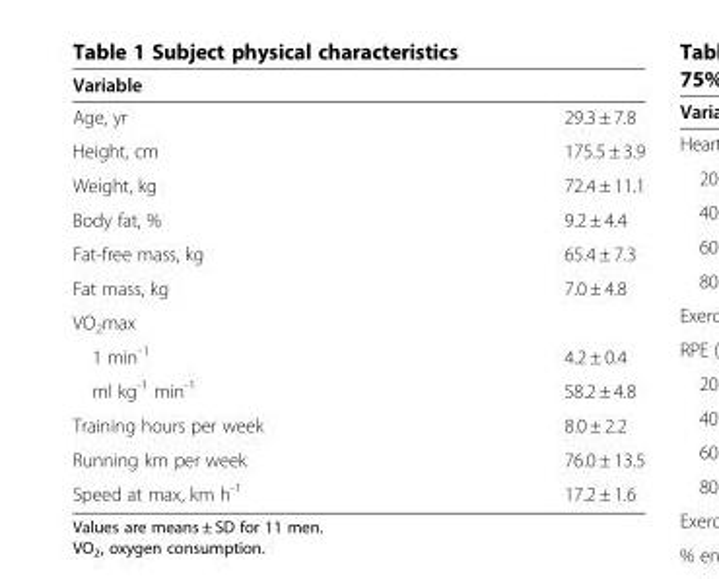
<table><thead><tr><td colspan="2">Variable</td></tr><tr><td>Age, yr</td><td>29.3 ± 7.8</td></tr></thead><tbody><tr><td>Height, cm</td><td>175.5 ± 3.9</td></tr><tr><td>Weight, kg</td><td>72.4 ± 11.1</td></tr><tr><td>Body fat, %</td><td>9.2 ± 4.4</td></tr><tr><td>Fat-free mass, kg</td><td>65.4 ± 7.3</td></tr><tr><td>Fat mass, kg</td><td>7.0 ± 4.8</td></tr><tr><td colspan="2">VO<sub>2</sub>max</td></tr><tr><td>1 min<sup>-1</sup></td><td>4.2 ± 0.4</td></tr><tr><td>ml kg<sup>-1</sup> min<sup>-1</sup></td><td>58.2 ± 4.8</td></tr><tr><td>Training hours per week</td><td>8.0 ± 2.2</td></tr><tr><td>Running km per week</td><td>76.0 ± 13.5</td></tr><tr><td>Speed at max, km h<sup>-1</sup></td><td>17.2 ± 1.6</td></tr></tbody></table>